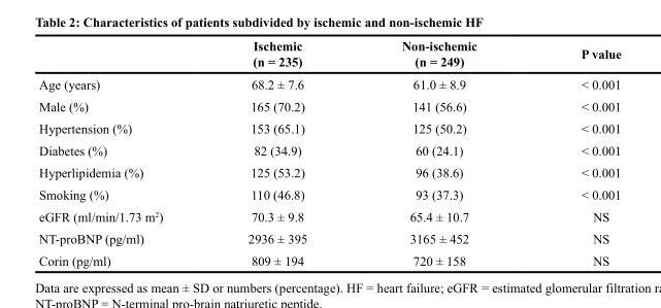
<table><thead><tr><td></td><td>Ischemic (n = 235)</td><td>Non-ischemic (n = 249)</td><td>P value</td></tr></thead><tbody><tr><td>Age (years)</td><td>68.2 ± 7.6</td><td>61.0 ± 8.9</td><td>&lt; 0.001</td></tr><tr><td>Male (%)</td><td>165 (70.2)</td><td>141 (56.6)</td><td>&lt; 0.001</td></tr><tr><td>Hypertension (%)</td><td>153 (65.1)</td><td>125 (50.2)</td><td>&lt; 0.001</td></tr><tr><td>Diabetes (%)</td><td>82 (34.9)</td><td>60 (24.1)</td><td>&lt; 0.001</td></tr><tr><td>Hyperlipidemia (%)</td><td>125 (53.2)</td><td>96 (38.6)</td><td>&lt; 0.001</td></tr><tr><td>Smoking (%)</td><td>110 (46.8)</td><td>93 (37.3)</td><td>&lt; 0.001</td></tr><tr><td>eGFR (ml/min/1.73 m<sup>2</sup>)</td><td>70.3 ± 9.8</td><td>65.4 ± 10.7</td><td>NS</td></tr><tr><td>NT-proBNP (pg/ml)</td><td>2936 ± 395</td><td>3165 ± 452</td><td>NS</td></tr><tr><td>Corin (pg/ml)</td><td>809 ± 194</td><td>720 ± 158</td><td>NS</td></tr></tbody></table>